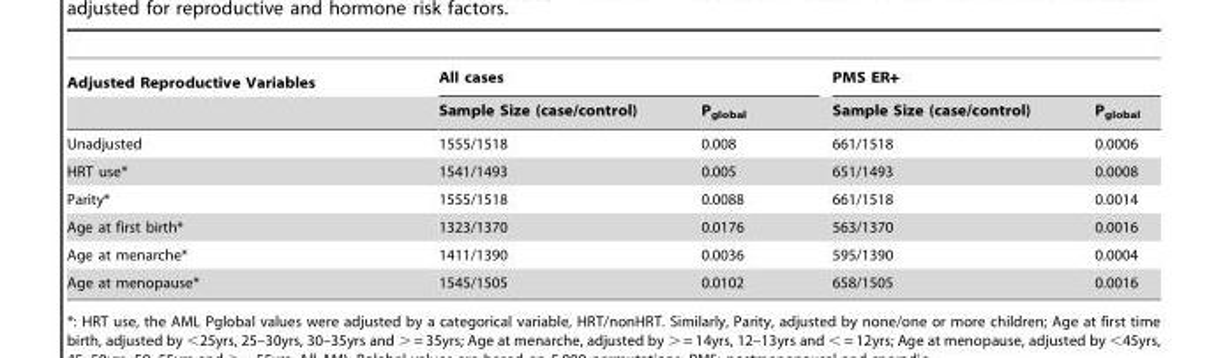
<table><thead><tr><td rowspan="2">Adjusted Reproductive Variables</td><td colspan="2">All cases</td><td colspan="2">PMS ER+</td></tr><tr><td>Sample Size (case/control)</td><td>P<sub>global</sub></td><td>Sample Size (case/control)</td><td>P<sub>global</sub></td></tr></thead><tbody><tr><td>Unadjusted</td><td>1555/1518</td><td>0.008</td><td>661/1518</td><td>0.0006</td></tr><tr><td>HRT use*</td><td>1541/1493</td><td>0.005</td><td>651/1493</td><td>0.0008</td></tr><tr><td>Parity*</td><td>1555/1518</td><td>0.0088</td><td>661/1518</td><td>0.0014</td></tr><tr><td>Age at first birth*</td><td>1323/1370</td><td>0.0176</td><td>563/1370</td><td>0.0016</td></tr><tr><td>Age at menarche*</td><td>1411/1390</td><td>0.0036</td><td>595/1390</td><td>0.0004</td></tr><tr><td>Age at menopause*</td><td>1545/1505</td><td>0.0102</td><td>658/1505</td><td>0.0016</td></tr></tbody></table>